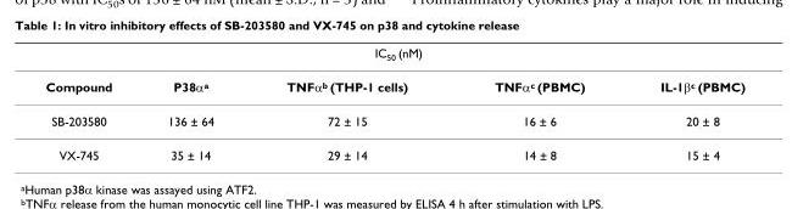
<table><thead><tr><td colspan="5">IC<sub>50</sub> (nM)</td></tr><tr><td>Compound</td><td>P38α<sup>a</sup></td><td>TNFα<sup>b</sup> (THP-1 cells)</td><td>TNFα<sup>c</sup> (PBMC)</td><td>IL-1β<sup>c</sup> (PBMC)</td></tr></thead><tbody><tr><td>SB-203580</td><td>136 ± 64</td><td>72 ± 15</td><td>16 ± 6</td><td>20 ± 8</td></tr><tr><td>VX-745</td><td>35 ± 14</td><td>29 ± 14</td><td>14 ± 8</td><td>15 ± 4</td></tr></tbody></table>